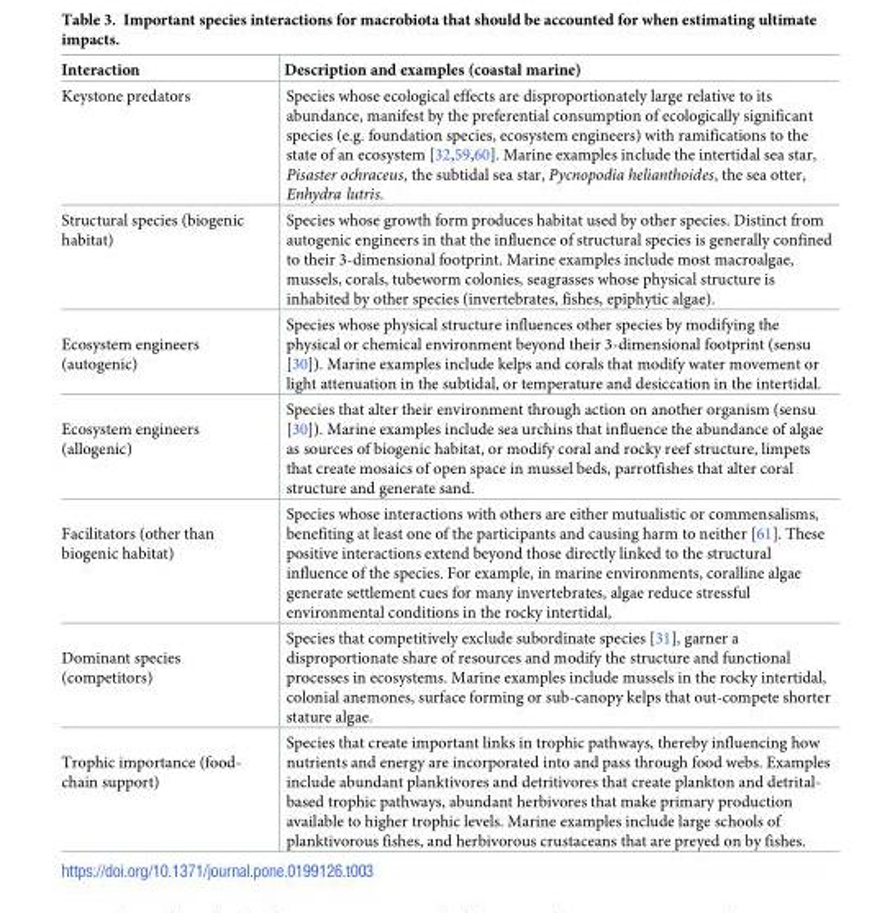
<table><thead><tr><td>Interaction</td><td>Description and examples (coastal marine)</td></tr></thead><tbody><tr><td>Keystone predators</td><td>Species whose ecological effects are disproportionately large relative to its abundance, manifest by the preferential consumption of ecologically significant species (e.g. foundation species, ecosystem engineers) with ramifications to the state of an ecosystem [32,59,60]. Marine examples include the intertidal sea star, Pisaster ochraceus, the subtidal sea star, Pycnopodia helianthoides, the sea otter, Enhydra lutris.</td></tr><tr><td>Structural species (biogenic habitat)</td><td>Species whose growth form produces habitat used by other species. Distinct from autogenic engineers in that the influence of structural species is generally confined to their 3-dimensional footprint. Marine examples include most macroalgae, mussels, corals, tubeworm colonies, seagrasses whose physical structure is inhabited by other species (invertebrates, fishes, epiphytic algae).</td></tr><tr><td>Ecosystem engineers (autogenic)</td><td>Species whose physical structure influences other species by modifying the physical or chemical environment beyond their 3-dimensional footprint (sensu [30]). Marine examples include kelps and corals that modify water movement or light attenuation in the subtidal, or temperature and desiccation in the intertidal.</td></tr><tr><td>Ecosystem engineers (allogenic)</td><td>Species that alter their environment through action on another organism (sensu [30]). Marine examples include sea urchins that influence the abundance of algae as sources of biogenic habitat, or modify coral and rocky reef structure, limpets that create mosaics of open space in mussel beds, parrotfishes that alter coral structure and generate sand.</td></tr><tr><td>Facilitators (other than biogenic habitat)</td><td>Species whose interactions with others are either mutualistic or commensalisms, benefiting at least one of the participants and causing harm to neither [61]. These positive interactions extend beyond those directly linked to the structural influence of the species. For example, in marine environments, coralline algae generate settlement cues for many invertebrates, algae reduce stressful environmental conditions in the rocky intertidal,</td></tr><tr><td>Dominant species (competitors)</td><td>Species that competitively exclude subordinate species [31], garner a disproportionate share of resources and modify the structure and functional processes in ecosystems. Marine examples include mussels in the rocky intertidal, colonial anemones, surface forming or sub-canopy kelps that out-compete shorter stature algae.</td></tr><tr><td>Trophic importance (food- chain support)</td><td>Species that create important links in trophic pathways, thereby influencing how nutrients and energy are incorporated into and pass through food webs. Examples include abundant planktivores and detritivores that create plankton and detrital- based trophic pathways, abundant herbivores that make primary production available to higher trophic levels. Marine examples include large schools of planktivorous fishes, and herbivorous crustaceans that are preyed on by fishes.</td></tr></tbody></table>